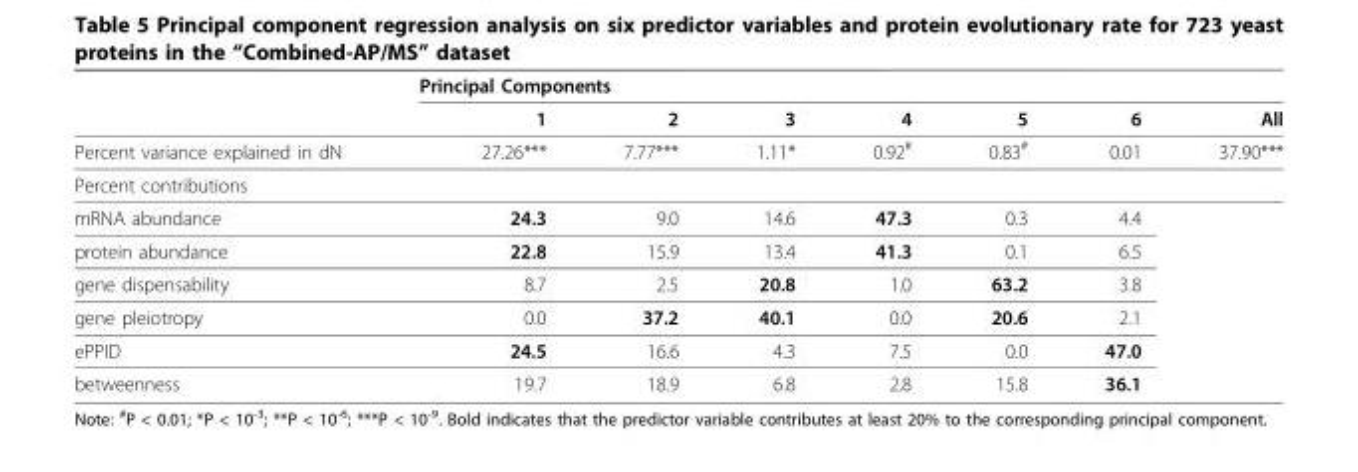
<table><thead><tr><td rowspan="2"></td><td colspan="7">Principal Components</td></tr><tr><td>1</td><td>2</td><td>3</td><td>4</td><td>5</td><td>6</td><td>All</td></tr></thead><tbody><tr><td>Percent variance explained in dN</td><td>27.26***</td><td>7.77***</td><td>1.11*</td><td>0.92<sup>#</sup></td><td>0.83<sup>#</sup></td><td>0.01</td><td>37.90***</td></tr><tr><td colspan="8">Percent contributions</td></tr><tr><td>mRNA abundance</td><td>24.3</td><td>9.0</td><td>14.6</td><td>47.3</td><td>0.3</td><td>4.4</td><td></td></tr><tr><td>protein abundance</td><td>22.8</td><td>15.9</td><td>13.4</td><td>41.3</td><td>0.1</td><td>6.5</td><td></td></tr><tr><td>gene dispensability</td><td>8.7</td><td>2.5</td><td>20.8</td><td>1.0</td><td>63.2</td><td>3.8</td><td></td></tr><tr><td>gene pleiotropy</td><td>0.0</td><td>37.2</td><td>40.1</td><td>0.0</td><td>20.6</td><td>2.1</td><td></td></tr><tr><td>ePPID</td><td>24.5</td><td>16.6</td><td>4.3</td><td>7.5</td><td>0.0</td><td>47.0</td><td></td></tr><tr><td>betweenness</td><td>19.7</td><td>18.9</td><td>6.8</td><td>2.8</td><td>15.8</td><td>36.1</td><td></td></tr></tbody></table>